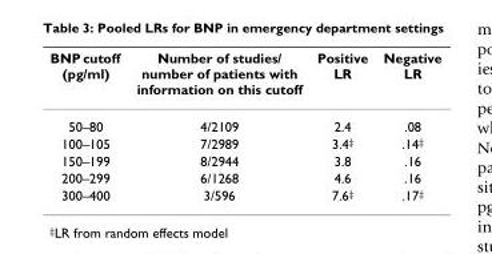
<table><thead><tr><td>BNP cutoff (pg/ml)</td><td>Number of studies/ number of patients with information on this cutoff</td><td>Positive LR</td><td>Negative LR</td></tr></thead><tbody><tr><td>50–80</td><td>4/2109</td><td>2.4</td><td>.08</td></tr><tr><td>100–105</td><td>7/2989</td><td>3.4<sup>‡</sup></td><td>.14<sup>‡</sup></td></tr><tr><td>150–199</td><td>8/2944</td><td>3.8</td><td>.16</td></tr><tr><td>200–299</td><td>6/1268</td><td>4.6</td><td>.16</td></tr><tr><td>300–400</td><td>3/596</td><td>7.6<sup>‡</sup></td><td>.17<sup>‡</sup></td></tr></tbody></table>